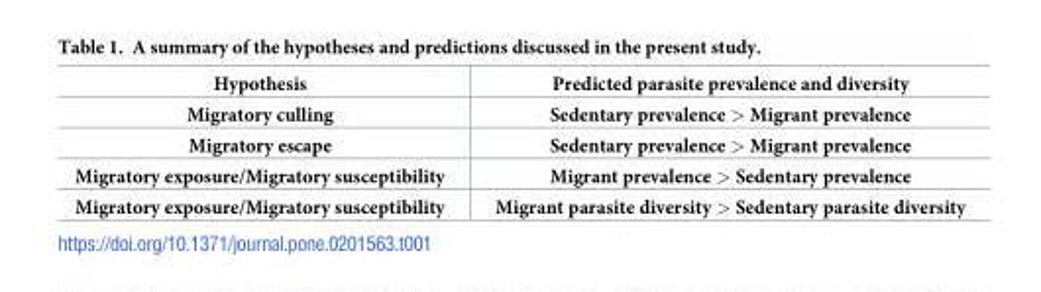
<table><thead><tr><td>Hypothesis</td><td>Predicted parasite prevalence and diversity</td></tr></thead><tbody><tr><td>Migratory culling</td><td>Sedentary prevalence &gt; Migrant prevalence</td></tr><tr><td>Migratory escape</td><td>Sedentary prevalence &gt; Migrant prevalence</td></tr><tr><td>Migratory exposure/Migratory susceptibility</td><td>Migrant prevalence &gt; Sedentary prevalence</td></tr><tr><td>Migratory exposure/Migratory susceptibility</td><td>Migrant parasite diversity &gt; Sedentary parasite diversity</td></tr></tbody></table>